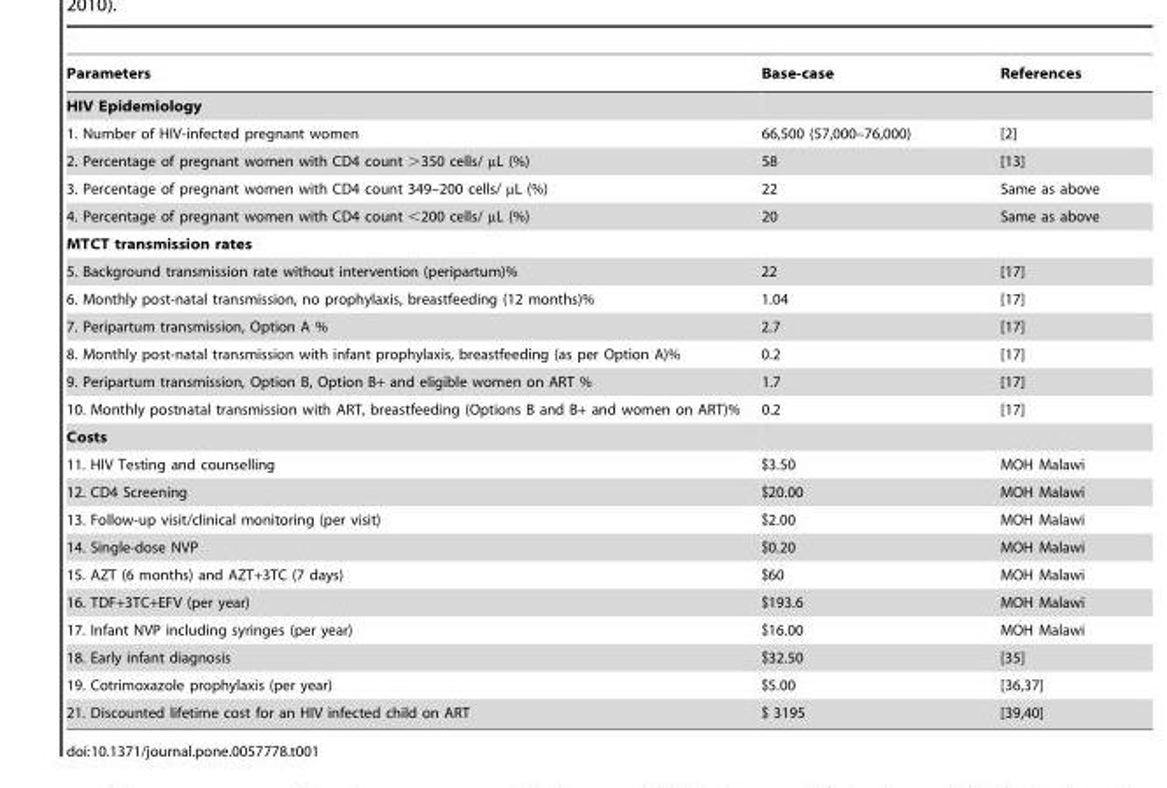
<table><thead><tr><td>Parameters</td><td>Base-case</td><td>References</td></tr></thead><tbody><tr><td colspan="3">HIV Epidemiology</td></tr><tr><td>1. Number of HIV-infected pregnant women</td><td>66,500 (57,000–76,000)</td><td>[2]</td></tr><tr><td>2. Percentage of pregnant women with CD4 count &gt;350 cells/ µL (%)</td><td>58</td><td>[13]</td></tr><tr><td>3. Percentage of pregnant women with CD4 count 349–200 cells/ µL (%)</td><td>22</td><td>Same as above</td></tr><tr><td>4. Percentage of pregnant women with CD4 count &lt;200 cells/ µL (%)</td><td>20</td><td>Same as above</td></tr><tr><td colspan="3">MTCT transmission rates</td></tr><tr><td>5. Background transmission rate without intervention (peripartum)%</td><td>22</td><td>[17]</td></tr><tr><td>6. Monthly post-natal transmission, no prophylaxis, breastfeeding (12 months)%</td><td>1.04</td><td>[17]</td></tr><tr><td>7. Peripartum transmission, Option A %</td><td>2.7</td><td>[17]</td></tr><tr><td>8. Monthly post-natal transmission with infant prophylaxis, breastfeeding (as per Option A)%</td><td>0.2</td><td>[17]</td></tr><tr><td>9. Peripartum transmission, Option B, Option B+ and eligible women on ART %</td><td>1.7</td><td>[17]</td></tr><tr><td>10. Monthly postnatal transmission with ART, breastfeeding (Options B and B+ and women on ART)%</td><td>0.2</td><td>[17]</td></tr><tr><td colspan="3">Costs</td></tr><tr><td>11. HIV Testing and counselling</td><td>$3.50</td><td>MOH Malawi</td></tr><tr><td>12. CD4 Screening</td><td>$20.00</td><td>MOH Malawi</td></tr><tr><td>13. Follow-up visit/clinical monitoring (per visit)</td><td>$2.00</td><td>MOH Malawi</td></tr><tr><td>14. Single-dose NVP</td><td>$0.20</td><td>MOH Malawi</td></tr><tr><td>15. AZT (6 months) and AZT+3TC (7 days)</td><td>$60</td><td>MOH Malawi</td></tr><tr><td>16. TDF+3TC+EFV (per year)</td><td>$193.6</td><td>MOH Malawi</td></tr><tr><td>17. Infant NVP including syringes (per year)</td><td>$16.00</td><td>MOH Malawi</td></tr><tr><td>18. Early infant diagnosis</td><td>$32.50</td><td>[35]</td></tr><tr><td>19. Cotrimoxazole prophylaxis (per year)</td><td>$5.00</td><td>[36,37]</td></tr><tr><td>21. Discounted lifetime cost for an HIV infected child on ART</td><td>$ 3195</td><td>[39,40]</td></tr></tbody></table>